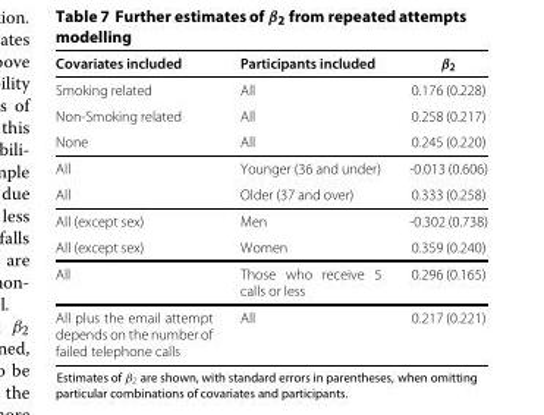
<table><thead><tr><td>Covariates included</td><td>Participants included</td><td><sub>β2</sub></td></tr></thead><tbody><tr><td>Smoking related</td><td>All</td><td>0.176 (0.228)</td></tr><tr><td>Non-Smoking related</td><td>All</td><td>0.258 (0.217)</td></tr><tr><td>None</td><td>All</td><td>0.245 (0.220)</td></tr><tr><td>All</td><td>Younger (36 and under)</td><td>-0.013 (0.606)</td></tr><tr><td>All</td><td>Older (37 and over)</td><td>0.333 (0.258)</td></tr><tr><td>All (except sex)</td><td>Men</td><td>-0.302 (0.738)</td></tr><tr><td>All (except sex)</td><td>Women</td><td>0.359 (0.240)</td></tr><tr><td>All</td><td>Those who receive 5 calls or less</td><td>0.296 (0.165)</td></tr><tr><td>All plus the email attempt depends on the number of failed telephone calls</td><td>All</td><td>0.217 (0.221)</td></tr></tbody></table>